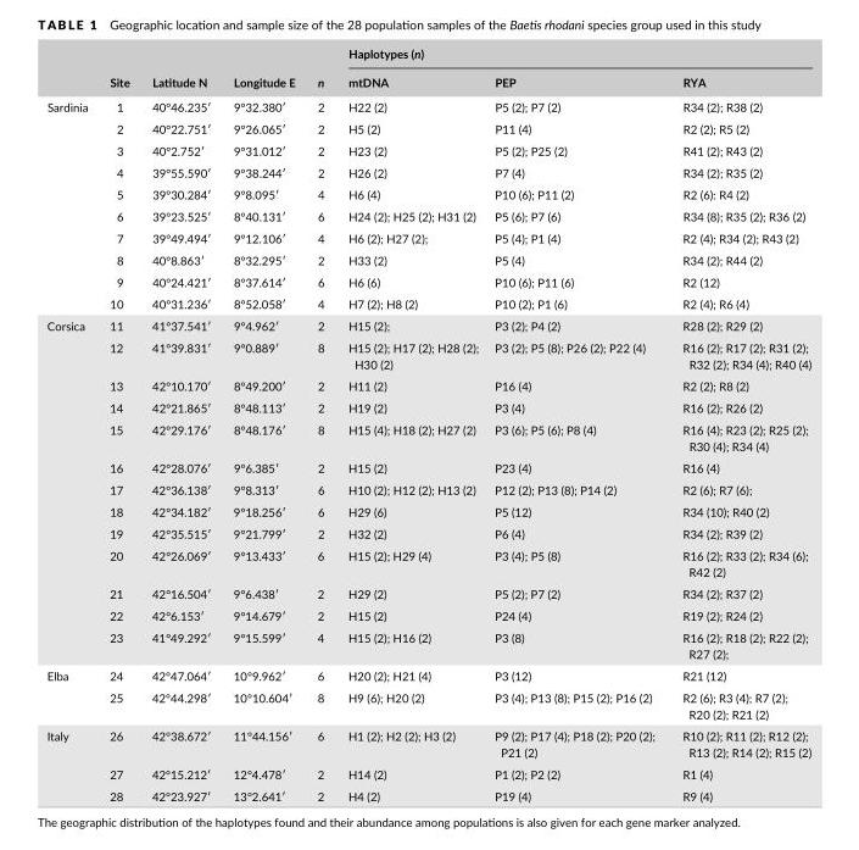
<table><thead><tr><td rowspan="2"></td><td rowspan="2">Site</td><td rowspan="2">Latitude N</td><td rowspan="2">Longitude E</td><td rowspan="2">n</td><td colspan="3">Haplotypes (n)</td></tr><tr><td>mtDNA</td><td>PEP</td><td>RYA</td></tr></thead><tbody><tr><td rowspan="10">Sardinia</td><td>1</td><td>40°46.235′</td><td>9°32.380′</td><td>2</td><td>H22 (2)</td><td>P5 (2); P7 (2)</td><td>R34 (2); R38 (2)</td></tr><tr><td>2</td><td>40°22.751′</td><td>9°26.065′</td><td>2</td><td>H5 (2)</td><td>P11 (4)</td><td>R2 (2); R5 (2)</td></tr><tr><td>3</td><td>40°2.752′</td><td>9°31.012′</td><td>2</td><td>H23 (2)</td><td>P5 (2); P25 (2)</td><td>R41 (2); R43 (2)</td></tr><tr><td>4</td><td>39°55.590′</td><td>9°38.244′</td><td>2</td><td>H26 (2)</td><td>P7 (4)</td><td>R34 (2); R35 (2)</td></tr><tr><td>5</td><td>39°30.284′</td><td>9°8.095′</td><td>4</td><td>H6 (4)</td><td>P10 (6); P11 (2)</td><td>R2 (6): R4 (2)</td></tr><tr><td>6</td><td>39°23.525′</td><td>8°40.131′</td><td>6</td><td>H24 (2); H25 (2); H31 (2)</td><td>P5 (6); P7 (6)</td><td>R34 (8); R35 (2); R36 (2)</td></tr><tr><td>7</td><td>39°49.494′</td><td>9°12.106′</td><td>4</td><td>H6 (2); H27 (2);</td><td>P5 (4); P1 (4)</td><td>R2 (4); R34 (2); R43 (2)</td></tr><tr><td>8</td><td>40°8.863′</td><td>8°32.295′</td><td>2</td><td>H33 (2)</td><td>P5 (4)</td><td>R34 (2); R44 (2)</td></tr><tr><td>9</td><td>40°24.421′</td><td>8°37.614′</td><td>6</td><td>H6 (6)</td><td>P10 (6); P11 (6)</td><td>R2 (12)</td></tr><tr><td>10</td><td>40°31.236′</td><td>8°52.058′</td><td>4</td><td>H7 (2); H8 (2)</td><td>P10 (2); P1 (6)</td><td>R2 (4); R6 (4)</td></tr><tr><td rowspan="13">Corsica</td><td>11</td><td>41°37.541′</td><td>9°4.962′</td><td>2</td><td>H15 (2);</td><td>P3 (2); P4 (2)</td><td>R28 (2); R29 (2)</td></tr><tr><td>12</td><td>41°39.831′</td><td>9°0.889′</td><td>8</td><td>H15 (2); H17 (2); H28 (2); H30 (2)</td><td>P3 (2); P5 (8); P26 (2); P22 (4)</td><td>R16 (2); R17 (2); R31 (2); R32 (2); R34 (4); R40 (4)</td></tr><tr><td>13</td><td>42°10.170′</td><td>8°49.200′</td><td>2</td><td>H11 (2)</td><td>P16 (4)</td><td>R2 (2); R8 (2)</td></tr><tr><td>14</td><td>42°21.865′</td><td>8°48.113′</td><td>2</td><td>H19 (2)</td><td>P3 (4)</td><td>R16 (2); R26 (2)</td></tr><tr><td>15</td><td>42°29.176′</td><td>8°48.176′</td><td>8</td><td>H15 (4); H18 (2); H27 (2)</td><td>P3 (6); P5 (6); P8 (4)</td><td>R16 (4); R23 (2); R25 (2); R30 (4); R34 (4)</td></tr><tr><td>16</td><td>42°28.076′</td><td>9°6.385′</td><td>2</td><td>H15 (2)</td><td>P23 (4)</td><td>R16 (4)</td></tr><tr><td>17</td><td>42°36.138′</td><td>9°8.313′</td><td>6</td><td>H10 (2); H12 (2); H13 (2)</td><td>P12 (2); P13 (8); P14 (2)</td><td>R2 (6); R7 (6);</td></tr><tr><td>18</td><td>42°34.182′</td><td>9°18.256′</td><td>6</td><td>H29 (6)</td><td>P5 (12)</td><td>R34 (10); R40 (2)</td></tr><tr><td>19</td><td>42°35.515′</td><td>9°21.799′</td><td>2</td><td>H32 (2)</td><td>P6 (4)</td><td>R34 (2); R39 (2)</td></tr><tr><td>20</td><td>42°26.069′</td><td>9°13.433′</td><td>6</td><td>H15 (2); H29 (4)</td><td>P3 (4); P5 (8)</td><td>R16 (2); R33 (2); R34 (6); R42 (2)</td></tr><tr><td>21</td><td>42°16.504′</td><td>9°6.438′</td><td>2</td><td>H29 (2)</td><td>P5 (2); P7 (2)</td><td>R34 (2); R37 (2)</td></tr><tr><td>22</td><td>42°6.153′</td><td>9°14.679′</td><td>2</td><td>H15 (2)</td><td>P24 (4)</td><td>R19 (2); R24 (2)</td></tr><tr><td>23</td><td>41°49.292′</td><td>9°15.599′</td><td>4</td><td>H15 (2); H16 (2)</td><td>P3 (8)</td><td>R16 (2); R18 (2); R22 (2); R27 (2);</td></tr><tr><td rowspan="2">Elba</td><td>24</td><td>42°47.064′</td><td>10°9.962′</td><td>6</td><td>H20 (2); H21 (4)</td><td>P3 (12)</td><td>R21 (12)</td></tr><tr><td>25</td><td>42°44.298′</td><td>10°10.604′</td><td>8</td><td>H9 (6); H20 (2)</td><td>P3 (4); P13 (8); P15 (2); P16 (2)</td><td>R2 (6); R3 (4); R7 (2); R20 (2); R21 (2)</td></tr><tr><td rowspan="3">Italy</td><td>26</td><td>42°38.672′</td><td>11°44.156′</td><td>6</td><td>H1 (2); H2 (2); H3 (2)</td><td>P9 (2); P17 (4); P18 (2); P20 (2); P21 (2)</td><td>R10 (2); R11 (2); R12 (2); R13 (2); R14 (2); R15 (2)</td></tr><tr><td>27</td><td>42°15.212′</td><td>12°4.478′</td><td>2</td><td>H14 (2)</td><td>P1 (2); P2 (2)</td><td>R1 (4)</td></tr><tr><td>28</td><td>42°23.927′</td><td>13°2.641′</td><td>2</td><td>H4 (2)</td><td>P19 (4)</td><td>R9 (4)</td></tr></tbody></table>